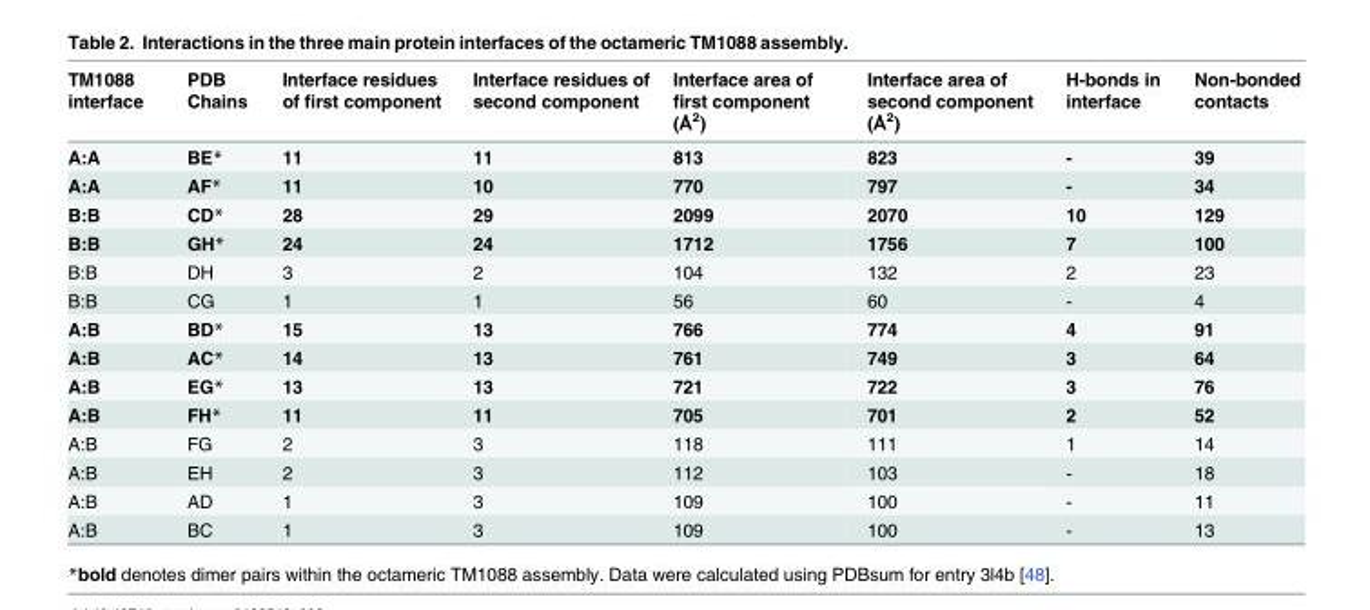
<table><thead><tr><td>TM1088 interface</td><td>PDB Chains</td><td>Interface residues of first component</td><td>Interface residues of second component</td><td>Interface area of first component (Å<sup>2</sup>)</td><td>Interface area of second component (Å<sup>2</sup>)</td><td>H-bonds in interface</td><td>Non-bonded contacts</td></tr></thead><tbody><tr><td>A:A</td><td>BE*</td><td>11</td><td>11</td><td>813</td><td>823</td><td>-</td><td>39</td></tr><tr><td>A:A</td><td>AF*</td><td>11</td><td>10</td><td>770</td><td>797</td><td>-</td><td>34</td></tr><tr><td>B:B</td><td>CD*</td><td>28</td><td>29</td><td>2099</td><td>2070</td><td>10</td><td>129</td></tr><tr><td>B:B</td><td>GH*</td><td>24</td><td>24</td><td>1712</td><td>1756</td><td>7</td><td>100</td></tr><tr><td>B:B</td><td>DH</td><td>3</td><td>2</td><td>104</td><td>132</td><td>2</td><td>23</td></tr><tr><td>B:B</td><td>CG</td><td>1</td><td>1</td><td>56</td><td>60</td><td>-</td><td>4</td></tr><tr><td>A:B</td><td>BD*</td><td>15</td><td>13</td><td>766</td><td>774</td><td>4</td><td>91</td></tr><tr><td>A:B</td><td>AC*</td><td>14</td><td>13</td><td>761</td><td>749</td><td>3</td><td>64</td></tr><tr><td>A:B</td><td>EG*</td><td>13</td><td>13</td><td>721</td><td>722</td><td>3</td><td>76</td></tr><tr><td>A:B</td><td>FH*</td><td>11</td><td>11</td><td>705</td><td>701</td><td>2</td><td>52</td></tr><tr><td>A:B</td><td>FG</td><td>2</td><td>3</td><td>118</td><td>111</td><td>1</td><td>14</td></tr><tr><td>A:B</td><td>EH</td><td>2</td><td>3</td><td>112</td><td>103</td><td>-</td><td>18</td></tr><tr><td>A:B</td><td>AD</td><td>1</td><td>3</td><td>109</td><td>100</td><td>-</td><td>11</td></tr><tr><td>A:B</td><td>BC</td><td>1</td><td>3</td><td>109</td><td>100</td><td>-</td><td>13</td></tr></tbody></table>